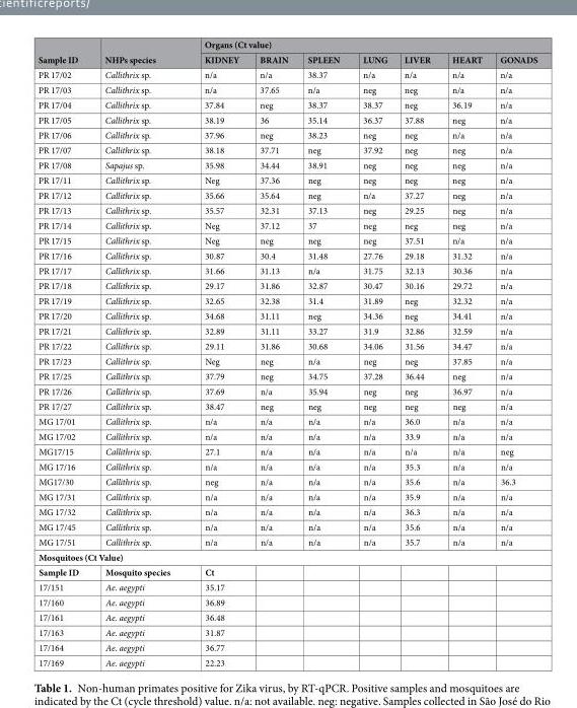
<table><thead><tr><td rowspan="2">Sample ID</td><td rowspan="2">NHPs species</td><td colspan="7">Organs (Ct value)</td></tr><tr><td>KIDNEY</td><td>BRAIN</td><td>SPLEEN</td><td>LUNG</td><td>LIVER</td><td>HEART</td><td>GONADS</td></tr></thead><tbody><tr><td>PR 17/02</td><td>Callithrix sp.</td><td>n/a</td><td>n/a</td><td>38.37</td><td>n/a</td><td>n/a</td><td>n/a</td><td>n/a</td></tr><tr><td>PR 17/03</td><td>Callithrix sp.</td><td>n/a</td><td>37.65</td><td>n/a</td><td>neg</td><td>neg</td><td>n/a</td><td>n/a</td></tr><tr><td>PR 17/04</td><td>Callithrix sp.</td><td>37.84</td><td>neg</td><td>38.37</td><td>38.37</td><td>neg</td><td>36.19</td><td>n/a</td></tr><tr><td>PR 17/05</td><td>Callithrix sp.</td><td>38.19</td><td>36</td><td>35.14</td><td>36.37</td><td>37.88</td><td>neg</td><td>n/a</td></tr><tr><td>PR 17/06</td><td>Callithrix sp.</td><td>37.96</td><td>neg</td><td>38.23</td><td>neg</td><td>neg</td><td>n/a</td><td>n/a</td></tr><tr><td>PR 17/07</td><td>Callithrix sp.</td><td>38.18</td><td>37.71</td><td>neg</td><td>37.92</td><td>neg</td><td>neg</td><td>n/a</td></tr><tr><td>PR 17/08</td><td>Sapajus sp.</td><td>35.98</td><td>34.44</td><td>38.91</td><td>neg</td><td>neg</td><td>neg</td><td>n/a</td></tr><tr><td>PR 17/11</td><td>Callithrix sp.</td><td>Neg</td><td>37.36</td><td>neg</td><td>neg</td><td>neg</td><td>neg</td><td>n/a</td></tr><tr><td>PR 17/12</td><td>Callithrix sp.</td><td>35.66</td><td>35.64</td><td>neg</td><td>n/a</td><td>37.27</td><td>neg</td><td>n/a</td></tr><tr><td>PR 17/13</td><td>Callithrix sp.</td><td>35.57</td><td>32.31</td><td>37.13</td><td>neg</td><td>29.25</td><td>neg</td><td>n/a</td></tr><tr><td>PR 17/14</td><td>Callithrix sp.</td><td>Neg</td><td>37.12</td><td>37</td><td>neg</td><td>neg</td><td>neg</td><td>n/a</td></tr><tr><td>PR 17/15</td><td>Callithrix sp.</td><td>Neg</td><td>neg</td><td>neg</td><td>neg</td><td>37.51</td><td>n/a</td><td>n/a</td></tr><tr><td>PR 17/16</td><td>Callithrix sp.</td><td>30.87</td><td>30.4</td><td>31.48</td><td>27.76</td><td>29.18</td><td>31.32</td><td>n/a</td></tr><tr><td>PR 17/17</td><td>Callithrix sp.</td><td>31.66</td><td>31.13</td><td>n/a</td><td>31.75</td><td>32.13</td><td>30.36</td><td>n/a</td></tr><tr><td>PR 17/18</td><td>Callithrix sp.</td><td>29.17</td><td>31.86</td><td>32.87</td><td>30.47</td><td>30.16</td><td>29.72</td><td>n/a</td></tr><tr><td>PR 17/19</td><td>Callithrix sp.</td><td>32.65</td><td>32.38</td><td>31.4</td><td>31.89</td><td>neg</td><td>32.32</td><td>n/a</td></tr><tr><td>PR 17/20</td><td>Callithrix sp.</td><td>34.68</td><td>31.11</td><td>neg</td><td>34.36</td><td>neg</td><td>34.41</td><td>n/a</td></tr><tr><td>PR 17/21</td><td>Callithrix sp.</td><td>32.89</td><td>31.11</td><td>33.27</td><td>31.9</td><td>32.86</td><td>32.59</td><td>n/a</td></tr><tr><td>PR 17/22</td><td>Callithrix sp.</td><td>29.11</td><td>31.86</td><td>30.68</td><td>34.06</td><td>31.56</td><td>34.47</td><td>n/a</td></tr><tr><td>PR 17/23</td><td>Callithrix sp.</td><td>Neg</td><td>neg</td><td>n/a</td><td>neg</td><td>neg</td><td>37.85</td><td>n/a</td></tr><tr><td>PR 17/25</td><td>Callithrix sp.</td><td>37.79</td><td>neg</td><td>34.75</td><td>37.28</td><td>36.44</td><td>neg</td><td>n/a</td></tr><tr><td>PR 17/26</td><td>Callithrix sp.</td><td>37.69</td><td>n/a</td><td>35.94</td><td>neg</td><td>neg</td><td>36.97</td><td>n/a</td></tr><tr><td>PR 17/27</td><td>Callithrix sp.</td><td>38.47</td><td>neg</td><td>neg</td><td>neg</td><td>neg</td><td>neg</td><td>n/a</td></tr><tr><td>MG 17/01</td><td>Callithrix sp.</td><td>n/a</td><td>n/a</td><td>n/a</td><td>n/a</td><td>36.0</td><td>n/a</td><td>n/a</td></tr><tr><td>MG 17/02</td><td>Callithrix sp.</td><td>n/a</td><td>n/a</td><td>n/a</td><td>n/a</td><td>33.9</td><td>n/a</td><td>n/a</td></tr><tr><td>MG17/15</td><td>Callithrix sp.</td><td>27.1</td><td>n/a</td><td>n/a</td><td>n/a</td><td>n/a</td><td>n/a</td><td>neg</td></tr><tr><td>MG 17/16</td><td>Callithrix sp.</td><td>n/a</td><td>n/a</td><td>n/a</td><td>n/a</td><td>35.3</td><td>n/a</td><td>n/a</td></tr><tr><td>MG17/30</td><td>Callithrix sp.</td><td>neg</td><td>n/a</td><td>n/a</td><td>n/a</td><td>35.6</td><td>n/a</td><td>36.3</td></tr><tr><td>MG 17/31</td><td>Callithrix sp.</td><td>n/a</td><td>n/a</td><td>n/a</td><td>n/a</td><td>35.9</td><td>n/a</td><td>n/a</td></tr><tr><td>MG 17/32</td><td>Callithrix sp.</td><td>n/a</td><td>n/a</td><td>n/a</td><td>n/a</td><td>36.3</td><td>n/a</td><td>n/a</td></tr><tr><td>MG 17/45</td><td>Callithrix sp.</td><td>n/a</td><td>n/a</td><td>n/a</td><td>n/a</td><td>35.6</td><td>n/a</td><td>n/a</td></tr><tr><td>MG 17/51</td><td>Callithrix sp.</td><td>n/a</td><td>n/a</td><td>n/a</td><td>n/a</td><td>35.7</td><td>n/a</td><td>n/a</td></tr><tr><td colspan="9">Mosquitoes (Ct Value)</td></tr><tr><td>Sample ID</td><td>Mosquito species</td><td>Ct</td><td></td><td></td><td></td><td></td><td></td><td></td></tr><tr><td>17/151</td><td>Ae. aegypti</td><td>35.17</td><td></td><td></td><td></td><td></td><td></td><td></td></tr><tr><td>17/160</td><td>Ae. aegypti</td><td>36.89</td><td></td><td></td><td></td><td></td><td></td><td></td></tr><tr><td>17/161</td><td>Ae. aegypti</td><td>36.48</td><td></td><td></td><td></td><td></td><td></td><td></td></tr><tr><td>17/163</td><td>Ae. aegypti</td><td>31.87</td><td></td><td></td><td></td><td></td><td></td><td></td></tr><tr><td>17/164</td><td>Ae. aegypti</td><td>36.77</td><td></td><td></td><td></td><td></td><td></td><td></td></tr><tr><td>17/169</td><td>Ae. aegypti</td><td>22.23</td><td></td><td></td><td></td><td></td><td></td><td></td></tr></tbody></table>